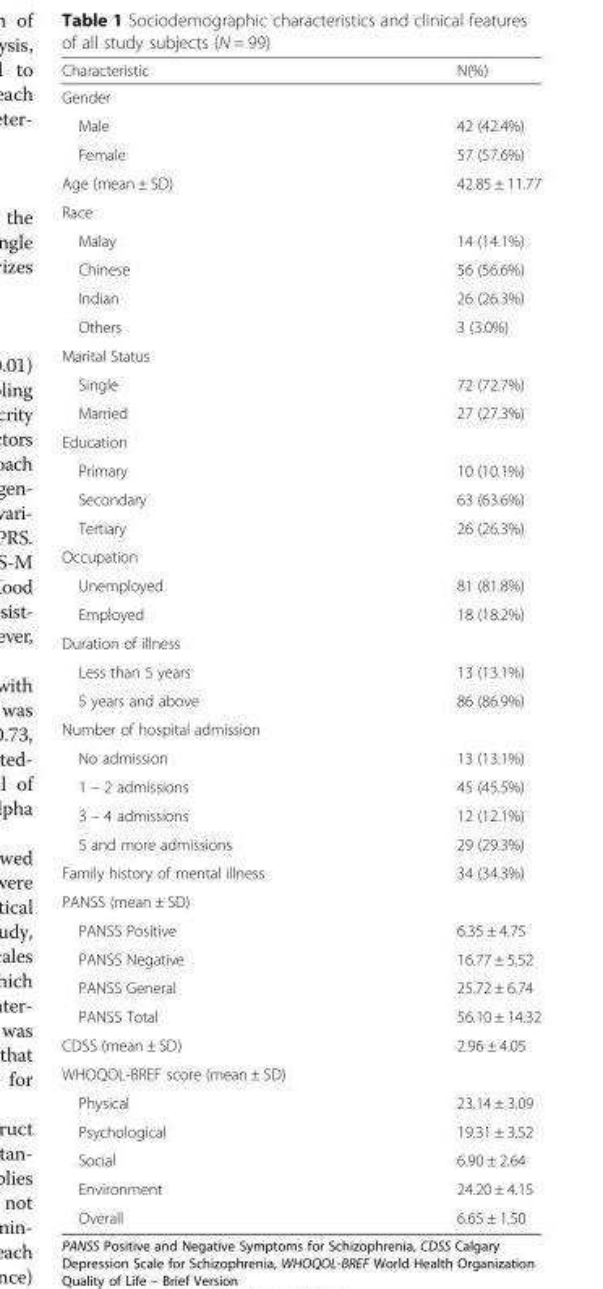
<table><thead><tr><td>Characteristic</td><td>N(%)</td></tr></thead><tbody><tr><td colspan="2">Gender</td></tr><tr><td>Male</td><td>42 (42.4%)</td></tr><tr><td>Female</td><td>57 (57.6%)</td></tr><tr><td>Age (mean ± SD)</td><td>42.85 ± 11.77</td></tr><tr><td colspan="2">Race</td></tr><tr><td>Malay</td><td>14 (14.1%)</td></tr><tr><td>Chinese</td><td>56 (56.6%)</td></tr><tr><td>Indian</td><td>26 (26.3%)</td></tr><tr><td>Others</td><td>3 (3.0%)</td></tr><tr><td colspan="2">Marital Status</td></tr><tr><td>Single</td><td>72 (72.7%)</td></tr><tr><td>Married</td><td>27 (27.3%)</td></tr><tr><td colspan="2">Education</td></tr><tr><td>Primary</td><td>10 (10.1%)</td></tr><tr><td>Secondary</td><td>63 (63.6%)</td></tr><tr><td>Tertiary</td><td>26 (26.3%)</td></tr><tr><td colspan="2">Occupation</td></tr><tr><td>Unemployed</td><td>81 (81.8%)</td></tr><tr><td>Employed</td><td>18 (18.2%)</td></tr><tr><td colspan="2">Duration of illness</td></tr><tr><td>Less than 5 years</td><td>13 (13.1%)</td></tr><tr><td>5 years and above</td><td>86 (86.9%)</td></tr><tr><td colspan="2">Number of hospital admission</td></tr><tr><td>No admission</td><td>13 (13.1%)</td></tr><tr><td>1 – 2 admissions</td><td>45 (45.5%)</td></tr><tr><td>3 – 4 admissions</td><td>12 (12.1%)</td></tr><tr><td>5 and more admissions</td><td>29 (29.3%)</td></tr><tr><td>Family history of mental illness</td><td>34 (34.3%)</td></tr><tr><td colspan="2">PANSS (mean ± SD)</td></tr><tr><td>PANSS Positive</td><td>6.35 ± 4.75</td></tr><tr><td>PANSS Negative</td><td>16.77 ± 5.52</td></tr><tr><td>PANSS General</td><td>25.72 ± 6.74</td></tr><tr><td>PANSS Total</td><td>56.10 ± 14.32</td></tr><tr><td>CDSS (mean ± SD)</td><td>2.96 ± 4.05</td></tr><tr><td colspan="2">WHOQOL-BREF score (mean ± SD)</td></tr><tr><td>Physical</td><td>23.14 ± 3.09</td></tr><tr><td>Psychological</td><td>19.31 ± 3.52</td></tr><tr><td>Social</td><td>6.90 ± 2.64</td></tr><tr><td>Environment</td><td>24.20 ± 4.15</td></tr><tr><td>Overall</td><td>6.65 ± 1.50</td></tr></tbody></table>